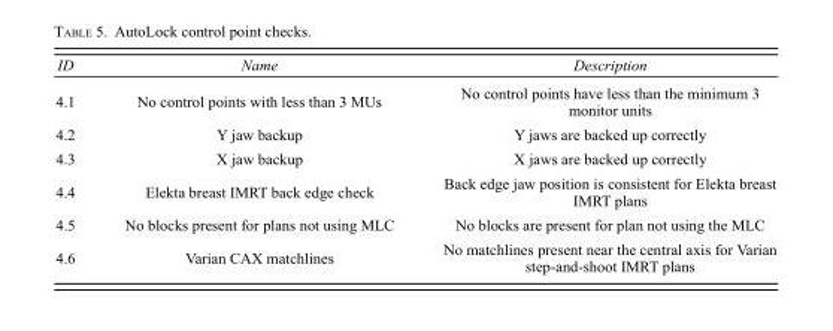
<table><thead><tr><td>ID</td><td>Name</td><td>Description</td></tr></thead><tbody><tr><td>4.1</td><td>No control points with less than 3 MUs</td><td>No control points have less than the minimum 3 monitor units</td></tr><tr><td>4.2</td><td>Y jaw backup</td><td>Y jaws are backed up correctly</td></tr><tr><td>4.3</td><td>X jaw backup</td><td>X jaws are backed up correctly</td></tr><tr><td>4.4</td><td>Elekta breast IMRT back edge check</td><td>Back edge jaw position is consistent for Elekta breast IMRT plans</td></tr><tr><td>4.5</td><td>No blocks present for plans not using MLC</td><td>No blocks are present for plan not using the MLC</td></tr><tr><td>4.6</td><td>Varian CAX matchlines</td><td>No matchlines present near the central axis for Varian step-and-shoot IMRT plans</td></tr></tbody></table>